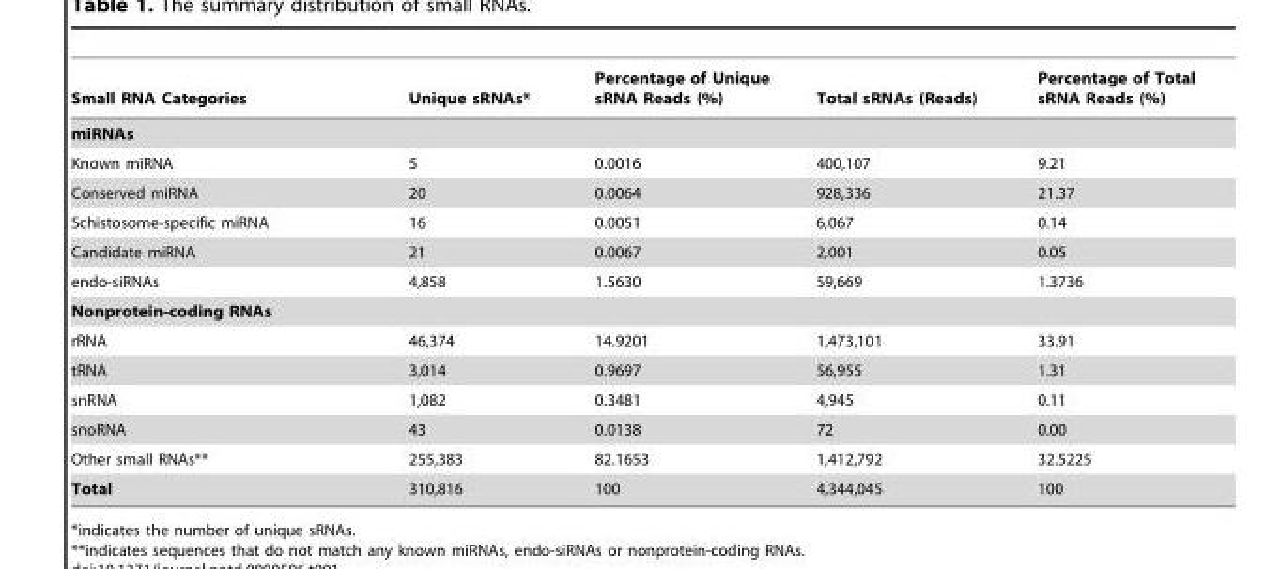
<table><thead><tr><td>Small RNA Categories</td><td>Unique sRNAs*</td><td>Percentage of Unique sRNA Reads (%)</td><td>Total sRNAs (Reads)</td><td>Percentage of Total sRNA Reads (%)</td></tr></thead><tbody><tr><td colspan="5">miRNAs</td></tr><tr><td>Known miRNA</td><td>5</td><td>0.0016</td><td>400,107</td><td>9.21</td></tr><tr><td>Conserved miRNA</td><td>20</td><td>0.0064</td><td>928,336</td><td>21.37</td></tr><tr><td>Schistosome-specific miRNA</td><td>16</td><td>0.0051</td><td>6,067</td><td>0.14</td></tr><tr><td>Candidate miRNA</td><td>21</td><td>0.0067</td><td>2,001</td><td>0.05</td></tr><tr><td>endo-siRNAs</td><td>4,858</td><td>1.5630</td><td>59,669</td><td>1.3736</td></tr><tr><td colspan="5">Nonprotein-coding RNAs</td></tr><tr><td>rRNA</td><td>46,374</td><td>14.9201</td><td>1,473,101</td><td>33.91</td></tr><tr><td>tRNA</td><td>3,014</td><td>0.9697</td><td>56,955</td><td>1.31</td></tr><tr><td>snRNA</td><td>1,082</td><td>0.3481</td><td>4,945</td><td>0.11</td></tr><tr><td>snoRNA</td><td>43</td><td>0.0138</td><td>72</td><td>0.00</td></tr><tr><td>Other small RNAs**</td><td>255,383</td><td>82.1653</td><td>1,412,792</td><td>32.5225</td></tr><tr><td>Total</td><td>310,816</td><td>100</td><td>4,344,045</td><td>100</td></tr></tbody></table>